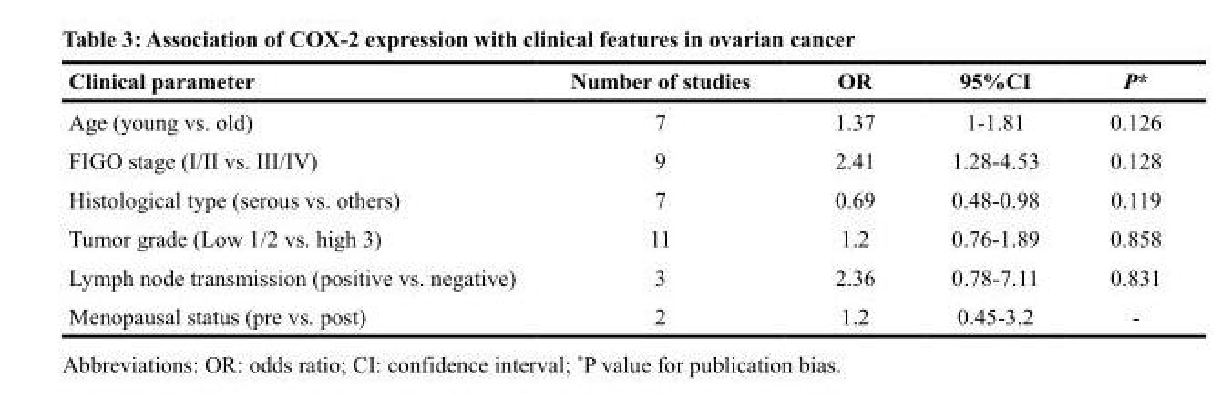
<table><thead><tr><td>Clinical parameter</td><td>Number of studies</td><td>OR</td><td>95%CI</td><td>P*</td></tr></thead><tbody><tr><td>Age (young vs. old)</td><td>7</td><td>1.37</td><td>1-1.81</td><td>0.126</td></tr><tr><td>FIGO stage (I/II vs. III/IV)</td><td>9</td><td>2.41</td><td>1.28-4.53</td><td>0.128</td></tr><tr><td>Histological type (serous vs. others)</td><td>7</td><td>0.69</td><td>0.48-0.98</td><td>0.119</td></tr><tr><td>Tumor grade (Low 1/2 vs. high 3)</td><td>11</td><td>1.2</td><td>0.76-1.89</td><td>0.858</td></tr><tr><td>Lymph node transmission (positive vs. negative)</td><td>3</td><td>2.36</td><td>0.78-7.11</td><td>0.831</td></tr><tr><td>Menopausal status (pre vs. post)</td><td>2</td><td>1.2</td><td>0.45-3.2</td><td>-</td></tr></tbody></table>